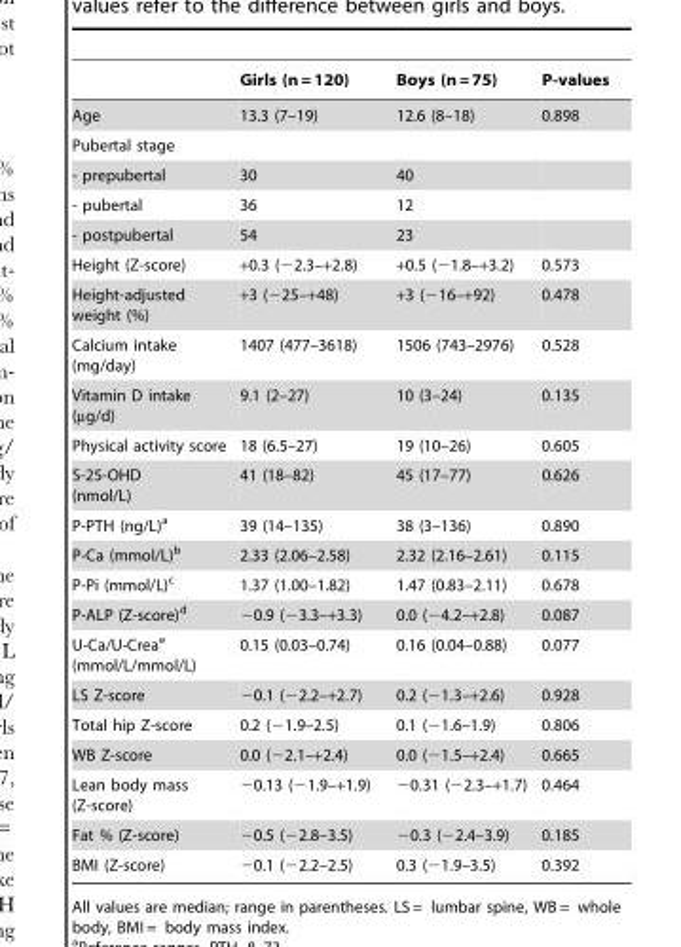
<table><thead><tr><td></td><td>Girls (n = 120)</td><td>Boys (n = 75)</td><td>P-values</td></tr></thead><tbody><tr><td>Age</td><td>13.3 (7–19)</td><td>12.6 (8–18)</td><td>0.898</td></tr><tr><td colspan="4">Pubertal stage</td></tr><tr><td>- prepubertal</td><td>30</td><td>40</td><td></td></tr><tr><td>- pubertal</td><td>36</td><td>12</td><td></td></tr><tr><td>- postpubertal</td><td>54</td><td>23</td><td></td></tr><tr><td>Height (Z-score)</td><td>+0.3 (−2.3–+2.8)</td><td>+0.5 (−1.8–+3.2)</td><td>0.573</td></tr><tr><td>Height-adjusted weight (%)</td><td>+3 (−25–+48)</td><td>+3 (−16–+92)</td><td>0.478</td></tr><tr><td>Calcium intake (mg/day)</td><td>1407 (477–3618)</td><td>1506 (743–2976)</td><td>0.528</td></tr><tr><td>Vitamin D intake (µg/d)</td><td>9.1 (2–27)</td><td>10 (3–24)</td><td>0.135</td></tr><tr><td>Physical activity score</td><td>18 (6.5–27)</td><td>19 (10–26)</td><td>0.605</td></tr><tr><td>S-25-OHD (nmol/L)</td><td>41 (18–82)</td><td>45 (17–77)</td><td>0.626</td></tr><tr><td>P-PTH (ng/L)<sup>a</sup></td><td>39 (14–135)</td><td>38 (3–136)</td><td>0.890</td></tr><tr><td>P-Ca (mmol/L)<sup>b</sup></td><td>2.33 (2.06–2.58)</td><td>2.32 (2.16–2.61)</td><td>0.115</td></tr><tr><td>P-Pi (mmol/L)<sup>c</sup></td><td>1.37 (1.00–1.82)</td><td>1.47 (0.83–2.11)</td><td>0.678</td></tr><tr><td>P-ALP (Z-score)<sup>d</sup></td><td>−0.9 (−3.3–+3.3)</td><td>0.0 (−4.2–+2.8)</td><td>0.087</td></tr><tr><td>U-Ca/U-Crea<sup>e</sup> (mmol/L/mmol/L)</td><td>0.15 (0.03–0.74)</td><td>0.16 (0.04–0.88)</td><td>0.077</td></tr><tr><td>LS Z-score</td><td>−0.1 (−2.2–+2.7)</td><td>0.2 (−1.3–+2.6)</td><td>0.928</td></tr><tr><td>Total hip Z-score</td><td>0.2 (−1.9–2.5)</td><td>0.1 (−1.6–1.9)</td><td>0.806</td></tr><tr><td>WB Z-score</td><td>0.0 (−2.1–+2.4)</td><td>0.0 (−1.5–+2.4)</td><td>0.665</td></tr><tr><td>Lean body mass (Z-score)</td><td>−0.13 (−1.9–+1.9)</td><td>−0.31 (−2.3–+1.7)</td><td>0.464</td></tr><tr><td>Fat % (Z-score)</td><td>−0.5 (−2.8–3.5)</td><td>−0.3 (−2.4–3.9)</td><td>0.185</td></tr><tr><td>BMI (Z-score)</td><td>−0.1 (−2.2–2.5)</td><td>0.3 (−1.9–3.5)</td><td>0.392</td></tr></tbody></table>